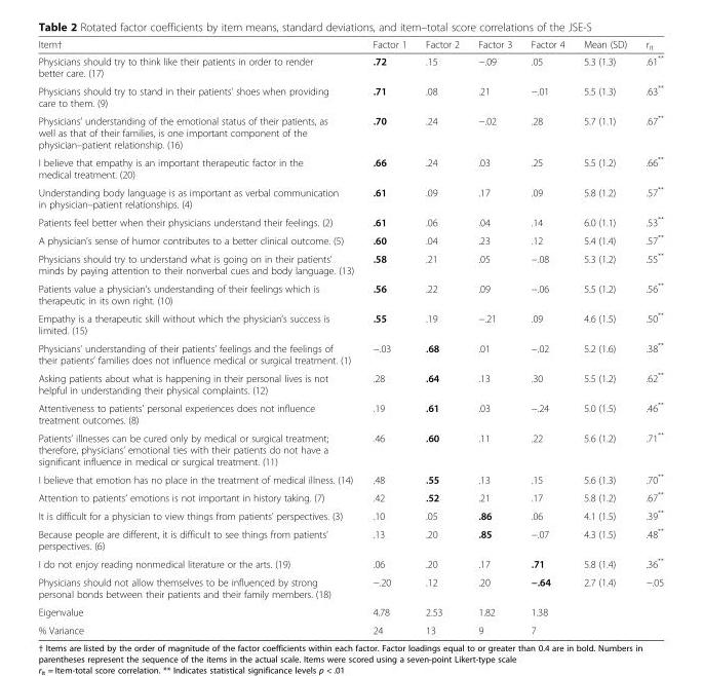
<table><thead><tr><td>Item†</td><td>Factor 1</td><td>Factor 2</td><td>Factor 3</td><td>Factor 4</td><td>Mean (SD)</td><td>r<sub>it</sub></td></tr></thead><tbody><tr><td>Physicians should try to think like their patients in order to render better care. (17)</td><td>.72</td><td>.15</td><td>−.09</td><td>.05</td><td>5.3 (1.3)</td><td>.61**</td></tr><tr><td>Physicians should try to stand in their patients’ shoes when providing care to them. (9)</td><td>.71</td><td>.08</td><td>.21</td><td>−.01</td><td>5.5 (1.3)</td><td>.63**</td></tr><tr><td>Physicians’ understanding of the emotional status of their patients, as well as that of their families, is one important component of the physician–patient relationship. (16)</td><td>.70</td><td>.24</td><td>−.02</td><td>.28</td><td>5.7 (1.1)</td><td>.67**</td></tr><tr><td>I believe that empathy is an important therapeutic factor in the medical treatment. (20)</td><td>.66</td><td>.24</td><td>.03</td><td>.25</td><td>5.5 (1.2)</td><td>.66**</td></tr><tr><td>Understanding body language is as important as verbal communication in physician–patient relationships. (4)</td><td>.61</td><td>.09</td><td>.17</td><td>.09</td><td>5.8 (1.2)</td><td>.57**</td></tr><tr><td>Patients feel better when their physicians understand their feelings. (2)</td><td>.61</td><td>.06</td><td>.04</td><td>.14</td><td>6.0 (1.1)</td><td>.53**</td></tr><tr><td>A physician’s sense of humor contributes to a better clinical outcome. (5)</td><td>.60</td><td>.04</td><td>.23</td><td>.12</td><td>5.4 (1.4)</td><td>.57**</td></tr><tr><td>Physicians should try to understand what is going on in their patients’ minds by paying attention to their nonverbal cues and body language. (13)</td><td>.58</td><td>.21</td><td>.05</td><td>−.08</td><td>5.3 (1.2)</td><td>.55**</td></tr><tr><td>Patients value a physician’s understanding of their feelings which is therapeutic in its own right. (10)</td><td>.56</td><td>.22</td><td>.09</td><td>−.06</td><td>5.5 (1.2)</td><td>.56**</td></tr><tr><td>Empathy is a therapeutic skill without which the physician’s success is limited. (15)</td><td>.55</td><td>.19</td><td>−.21</td><td>.09</td><td>4.6 (1.5)</td><td>.50**</td></tr><tr><td>Physicians’ understanding of their patients’ feelings and the feelings of their patients’ families does not influence medical or surgical treatment. (1)</td><td>−.03</td><td>.68</td><td>.01</td><td>−.02</td><td>5.2 (1.6)</td><td>.38**</td></tr><tr><td>Asking patients about what is happening in their personal lives is not helpful in understanding their physical complaints. (12)</td><td>.28</td><td>.64</td><td>.13</td><td>.30</td><td>5.5 (1.2)</td><td>.62**</td></tr><tr><td>Attentiveness to patients’ personal experiences does not influence treatment outcomes. (8)</td><td>.19</td><td>.61</td><td>.03</td><td>−.24</td><td>5.0 (1.5)</td><td>.46**</td></tr><tr><td>Patients’ illnesses can be cured only by medical or surgical treatment; therefore, physicians’ emotional ties with their patients do not have a significant influence in medical or surgical treatment. (11)</td><td>.46</td><td>.60</td><td>.11</td><td>.22</td><td>5.6 (1.2)</td><td>.71**</td></tr><tr><td>I believe that emotion has no place in the treatment of medical illness. (14)</td><td>.48</td><td>.55</td><td>.13</td><td>.15</td><td>5.6 (1.3)</td><td>.70**</td></tr><tr><td>Attention to patients’ emotions is not important in history taking. (7)</td><td>.42</td><td>.52</td><td>.21</td><td>.17</td><td>5.8 (1.2)</td><td>.67**</td></tr><tr><td>It is difficult for a physician to view things from patients’ perspectives. (3)</td><td>.10</td><td>.05</td><td>.86</td><td>.06</td><td>4.1 (1.5)</td><td>.39**</td></tr><tr><td>Because people are different, it is difficult to see things from patients’ perspectives. (6)</td><td>.13</td><td>.20</td><td>.85</td><td>−.07</td><td>4.3 (1.5)</td><td>.48**</td></tr><tr><td>I do not enjoy reading nonmedical literature or the arts. (19)</td><td>.06</td><td>.20</td><td>.17</td><td>.71</td><td>5.8 (1.4)</td><td>.36**</td></tr><tr><td>Physicians should not allow themselves to be influenced by strong personal bonds between their patients and their family members. (18)</td><td>−.20</td><td>.12</td><td>.20</td><td>−.64</td><td>2.7 (1.4)</td><td>−.05</td></tr><tr><td>Eigenvalue</td><td>4.78</td><td>2.53</td><td>1.82</td><td>1.38</td><td></td><td></td></tr><tr><td>% Variance</td><td>24</td><td>13</td><td>9</td><td>7</td><td></td><td></td></tr></tbody></table>